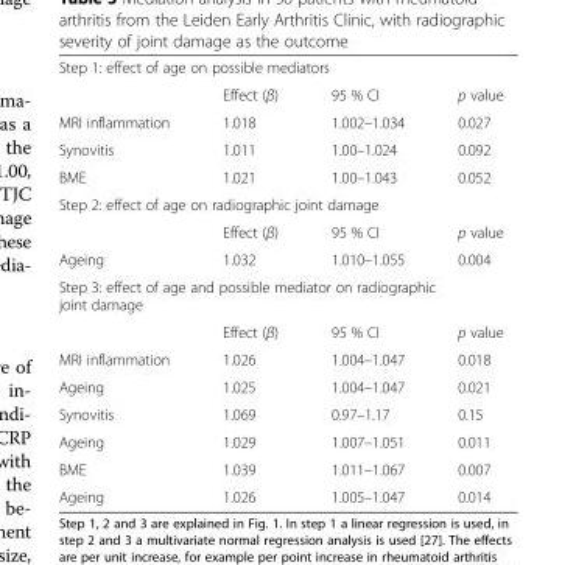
<table><tbody><tr><td colspan="4">Step 1: effect of age on possible mediators</td></tr><tr><td></td><td>Effect (β)</td><td>95 % CI</td><td>p value</td></tr><tr><td>MRI inflammation</td><td>1.018</td><td>1.002–1.034</td><td>0.027</td></tr><tr><td>Synovitis</td><td>1.011</td><td>1.00–1.024</td><td>0.092</td></tr><tr><td>BME</td><td>1.021</td><td>1.00–1.043</td><td>0.052</td></tr><tr><td colspan="4">Step 2: effect of age on radiographic joint damage</td></tr><tr><td></td><td>Effect (β)</td><td>95 % CI</td><td>p value</td></tr><tr><td>Ageing</td><td>1.032</td><td>1.010–1.055</td><td>0.004</td></tr><tr><td colspan="4">Step 3: effect of age and possible mediator on radiographic joint damage</td></tr><tr><td></td><td>Effect (β)</td><td>95 % CI</td><td>p value</td></tr><tr><td>MRI inflammation</td><td>1.026</td><td>1.004–1.047</td><td>0.018</td></tr><tr><td>Ageing</td><td>1.025</td><td>1.004–1.047</td><td>0.021</td></tr><tr><td>Synovitis</td><td>1.069</td><td>0.97–1.17</td><td>0.15</td></tr><tr><td>Ageing</td><td>1.029</td><td>1.007–1.051</td><td>0.011</td></tr><tr><td>BME</td><td>1.039</td><td>1.011–1.067</td><td>0.007</td></tr><tr><td>Ageing</td><td>1.026</td><td>1.005–1.047</td><td>0.014</td></tr></tbody></table>